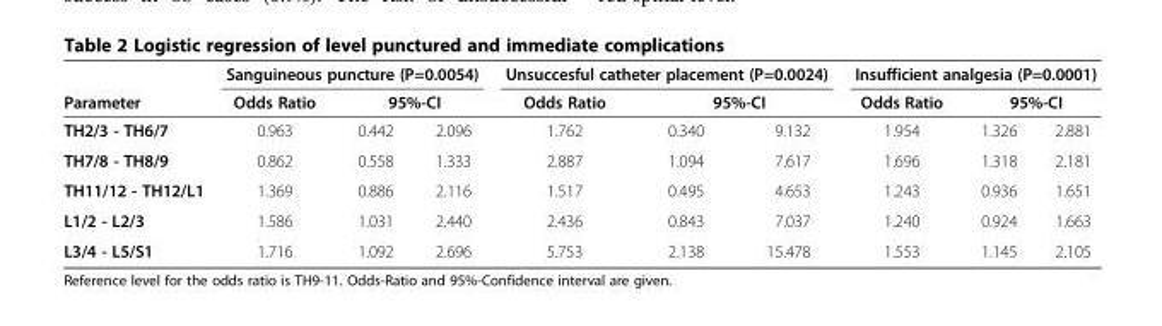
<table><thead><tr><td rowspan="3">Parameter TH2/3 - TH6/7</td><td colspan="3">Sanguineous puncture (P=0.0054)</td><td colspan="3">Unsuccesful catheter placement (P=0.0024)</td><td colspan="3">Insufficient analgesia (P=0.0001)</td></tr><tr><td rowspan="2">Odds Ratio 0.963</td><td colspan="2">95%-CI</td><td rowspan="2">Odds Ratio 1.762</td><td colspan="2">95%-CI</td><td rowspan="2">Odds Ratio 1.954</td><td colspan="2">95%-CI</td></tr><tr><td>0.442</td><td>2.096</td><td>0.340</td><td>9.132</td><td>1.326</td><td>2.881</td></tr></thead><tbody><tr><td>TH7/8 - TH8/9</td><td>0.862</td><td>0.558</td><td>1.333</td><td>2.887</td><td>1.094</td><td>7.617</td><td>1.696</td><td>1.318</td><td>2.181</td></tr><tr><td>TH11/12 - TH12/L1</td><td>1.369</td><td>0.886</td><td>2.116</td><td>1.517</td><td>0.495</td><td>4.653</td><td>1.243</td><td>0.936</td><td>1.651</td></tr><tr><td>L1/2 - L2/3</td><td>1.586</td><td>1.031</td><td>2.440</td><td>2.436</td><td>0.843</td><td>7.037</td><td>1.240</td><td>0.924</td><td>1.663</td></tr><tr><td>L3/4 - L5/S1</td><td>1.716</td><td>1.092</td><td>2.696</td><td>5.753</td><td>2.138</td><td>15.478</td><td>1.553</td><td>1.145</td><td>2.105</td></tr></tbody></table>